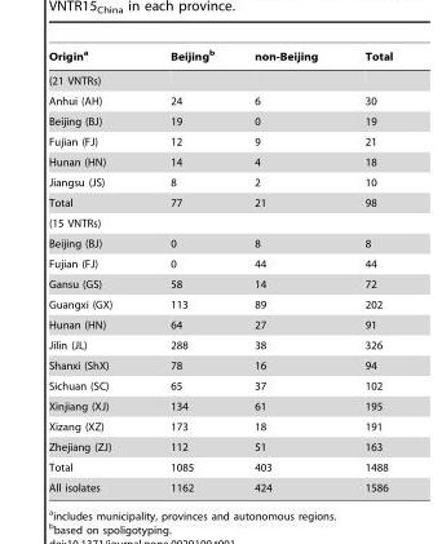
<table><thead><tr><td>Origin<sup>a</sup></td><td>Beijing<sup>b</sup></td><td>non-Beijing</td><td>Total</td></tr></thead><tbody><tr><td colspan="4">(21 VNTRs)</td></tr><tr><td>Anhui (AH)</td><td>24</td><td>6</td><td>30</td></tr><tr><td>Beijing (BJ)</td><td>19</td><td>0</td><td>19</td></tr><tr><td>Fujian (FJ)</td><td>12</td><td>9</td><td>21</td></tr><tr><td>Hunan (HN)</td><td>14</td><td>4</td><td>18</td></tr><tr><td>Jiangsu (JS)</td><td>8</td><td>2</td><td>10</td></tr><tr><td>Total</td><td>77</td><td>21</td><td>98</td></tr><tr><td colspan="4">(15 VNTRs)</td></tr><tr><td>Beijing (BJ)</td><td>0</td><td>8</td><td>8</td></tr><tr><td>Fujian (FJ)</td><td>0</td><td>44</td><td>44</td></tr><tr><td>Gansu (GS)</td><td>58</td><td>14</td><td>72</td></tr><tr><td>Guangxi (GX)</td><td>113</td><td>89</td><td>202</td></tr><tr><td>Hunan (HN)</td><td>64</td><td>27</td><td>91</td></tr><tr><td>Jilin (JL)</td><td>288</td><td>38</td><td>326</td></tr><tr><td>Shanxi (ShX)</td><td>78</td><td>16</td><td>94</td></tr><tr><td>Sichuan (SC)</td><td>65</td><td>37</td><td>102</td></tr><tr><td>Xinjiang (XJ)</td><td>134</td><td>61</td><td>195</td></tr><tr><td>Xizang (XZ)</td><td>173</td><td>18</td><td>191</td></tr><tr><td>Zhejiang (ZJ)</td><td>112</td><td>51</td><td>163</td></tr><tr><td>Total</td><td>1085</td><td>403</td><td>1488</td></tr><tr><td>All isolates</td><td>1162</td><td>424</td><td>1586</td></tr></tbody></table>